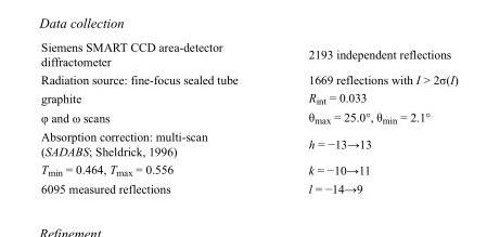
<table><tbody><tr><td>Siemens SMART CCD area-detector diffractometer</td><td>2193 independent reflections</td></tr><tr><td>Radiation source: fine-focus sealed tube</td><td>1669 reflections with I &gt; 2σ(I)</td></tr><tr><td>graphite</td><td>R<sub>int</sub> = 0.033</td></tr><tr><td>φ and ω scans</td><td>θ<sub>max</sub> = 25.0°, θ<sub>min</sub> = 2.1°</td></tr><tr><td>Absorption correction: multi-scan (SADABS; Sheldrick, 1996)</td><td>h = −13→13</td></tr><tr><td>T<sub>min</sub> = 0.464, T<sub>max</sub> = 0.556</td><td>k = −10→11</td></tr><tr><td>6095 measured reflections</td><td>l = −14→9</td></tr></tbody></table>